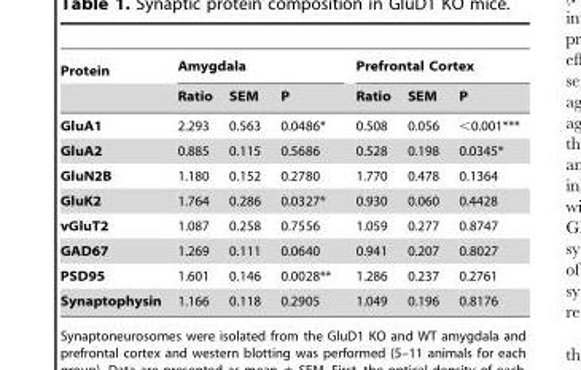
<table><thead><tr><td rowspan="2">Protein</td><td colspan="3">Amygdala</td><td colspan="3">Prefrontal Cortex</td></tr><tr><td>Ratio</td><td>SEM</td><td>P</td><td>Ratio</td><td>SEM</td><td>P</td></tr></thead><tbody><tr><td>GluA1</td><td>2.293</td><td>0.563</td><td>0.0486*</td><td>0.508</td><td>0.056</td><td>&lt;0.001***</td></tr><tr><td>GluA2</td><td>0.885</td><td>0.115</td><td>0.5686</td><td>0.528</td><td>0.198</td><td>0.0345*</td></tr><tr><td>GluN2B</td><td>1.180</td><td>0.152</td><td>0.2780</td><td>1.770</td><td>0.478</td><td>0.1364</td></tr><tr><td>GluK2</td><td>1.764</td><td>0.286</td><td>0.0327*</td><td>0.930</td><td>0.060</td><td>0.4428</td></tr><tr><td>vGluT2</td><td>1.087</td><td>0.258</td><td>0.7556</td><td>1.059</td><td>0.277</td><td>0.8747</td></tr><tr><td>GAD67</td><td>1.269</td><td>0.111</td><td>0.0640</td><td>0.941</td><td>0.207</td><td>0.8027</td></tr><tr><td>PSD95</td><td>1.601</td><td>0.146</td><td>0.0028**</td><td>1.286</td><td>0.237</td><td>0.2761</td></tr><tr><td>Synaptophysin</td><td>1.166</td><td>0.118</td><td>0.2905</td><td>1.049</td><td>0.196</td><td>0.8176</td></tr></tbody></table>